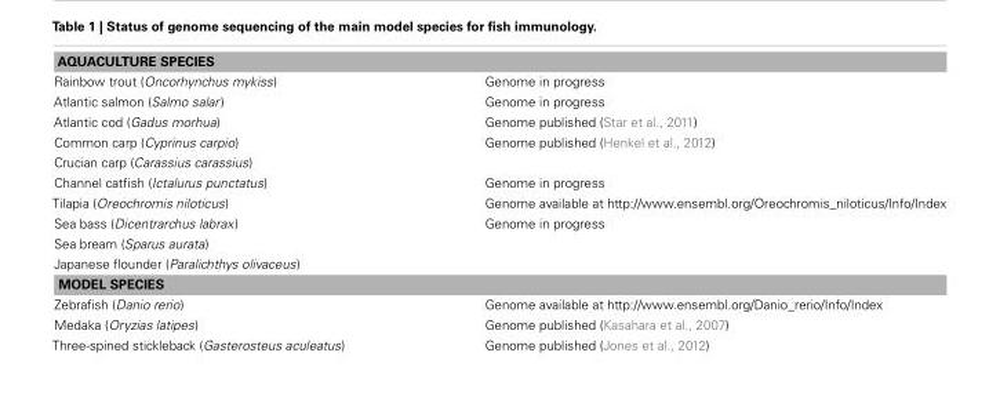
<table><tbody><tr><td colspan="2">AQUACULTURE SPECIES</td></tr><tr><td>Rainbow trout (Oncorhynchus mykiss)</td><td>Genome in progress</td></tr><tr><td>Atlantic salmon (Salmo salar)</td><td>Genome in progress</td></tr><tr><td>Atlantic cod (Gadus morhua)</td><td>Genome published (Star et al., 2011)</td></tr><tr><td>Common carp (Cyprinus carpio)</td><td>Genome published (Henkel et al., 2012)</td></tr><tr><td colspan="2">Crucian carp (Carassius carassius)</td></tr><tr><td>Channel catfish (Ictalurus punctatus)</td><td>Genome in progress</td></tr><tr><td>Tilapia (Oreochromis niloticus)</td><td>Genome available at http://www.ensembl.org/Oreochromis_niloticus/Info/Index</td></tr><tr><td>Sea bass (Dicentrarchus labrax)</td><td>Genome in progress</td></tr><tr><td colspan="2">Sea bream (Sparus aurata)</td></tr><tr><td colspan="2">Japanese flounder (Paralichthys olivaceus)</td></tr><tr><td colspan="2">MODEL SPECIES</td></tr><tr><td>Zebrafish (Danio rerio)</td><td>Genome available at http://www.ensembl.org/Danio_rerio/Info/Index</td></tr><tr><td>Medaka (Oryzias latipes)</td><td>Genome published (Kasahara et al., 2007)</td></tr><tr><td>Three-spined stickleback (Gasterosteus aculeatus)</td><td>Genome published (Jones et al., 2012)</td></tr></tbody></table>